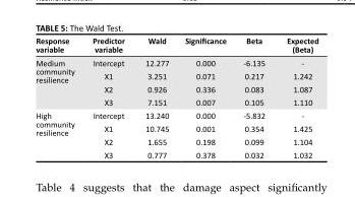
<table><thead><tr><td>Response variable</td><td>Predictor variable</td><td>Wald</td><td>Significance</td><td>Beta</td><td>Expected (Beta)</td></tr></thead><tbody><tr><td rowspan="4">Medium community resilience</td><td>Intercept</td><td>12.277</td><td>0.000</td><td>-6.135</td><td>-</td></tr><tr><td>X1</td><td>3.251</td><td>0.071</td><td>0.217</td><td>1.242</td></tr><tr><td>X2</td><td>0.926</td><td>0.336</td><td>0.083</td><td>1.087</td></tr><tr><td>X3</td><td>7.151</td><td>0.007</td><td>0.105</td><td>1.110</td></tr><tr><td rowspan="4">High community resilience</td><td>Intercept</td><td>13.240</td><td>0.000</td><td>-5.832</td><td>-</td></tr><tr><td>X1</td><td>10.745</td><td>0.001</td><td>0.354</td><td>1.425</td></tr><tr><td>X2</td><td>1.655</td><td>0.198</td><td>0.099</td><td>1.104</td></tr><tr><td>X3</td><td>0.777</td><td>0.378</td><td>0.032</td><td>1.032</td></tr></tbody></table>